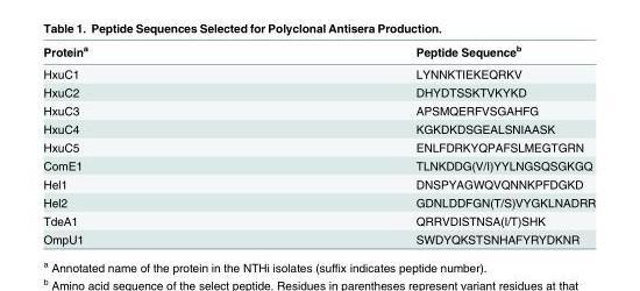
<table><thead><tr><td>Protein<sup>a</sup></td><td>Peptide Sequence<sup>b</sup></td></tr></thead><tbody><tr><td>HxuC1</td><td>LYNNKTIEKEQRKV</td></tr><tr><td>HxuC2</td><td>DHYDTSSKTVKYKD</td></tr><tr><td>HxuC3</td><td>APSMQERFVSGAHFG</td></tr><tr><td>HxuC4</td><td>KGKDKDSGEALSNIAASK</td></tr><tr><td>HxuC5</td><td>ENLFDRKYQPAFSLMEGTGRN</td></tr><tr><td>ComE1</td><td>TLNKDDG(V/I)YYLNGSQSGKGQ</td></tr><tr><td>Hel1</td><td>DNSPYAGWQVQNNKPFDGKD</td></tr><tr><td>Hel2</td><td>GDNLDDFGN(T/S)VYGKLNADRR</td></tr><tr><td>TdeA1</td><td>QRRVDISTNSA(I/T)SHK</td></tr><tr><td>OmpU1</td><td>SWDYQKSTSNHAFYRYDKNR</td></tr></tbody></table>